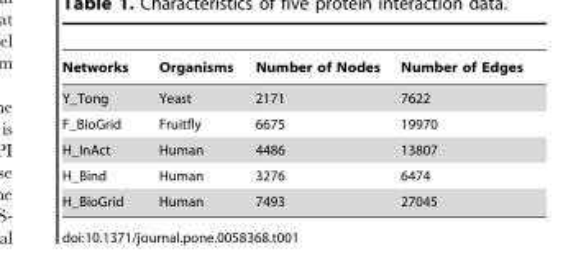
<table><thead><tr><td>Networks</td><td>Organisms</td><td>Number of Nodes</td><td>Number of Edges</td></tr></thead><tbody><tr><td>Y_Tong</td><td>Yeast</td><td>2171</td><td>7622</td></tr><tr><td>F_BioGrid</td><td>Fruitfly</td><td>6675</td><td>19970</td></tr><tr><td>H_InAct</td><td>Human</td><td>4486</td><td>13807</td></tr><tr><td>H_Bind</td><td>Human</td><td>3276</td><td>6474</td></tr><tr><td>H_BioGrid</td><td>Human</td><td>7493</td><td>27045</td></tr></tbody></table>